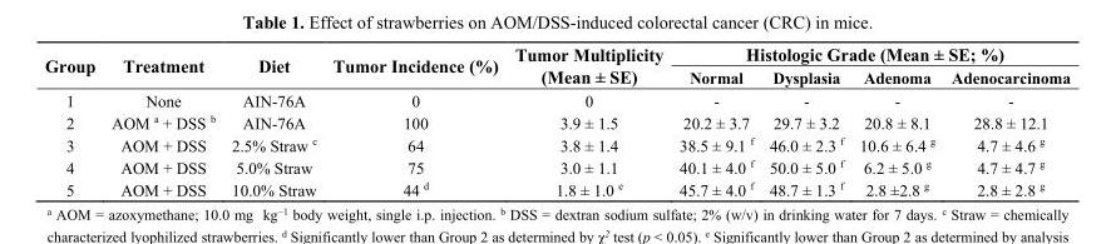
<table><thead><tr><td rowspan="2">Group</td><td rowspan="2">Treatment</td><td rowspan="2">Diet</td><td rowspan="2">Tumor Incidence (%)</td><td rowspan="2">Tumor Multiplicity (Mean ± SE)</td><td colspan="4">Histologic Grade (Mean ± SE; %)</td></tr><tr><td>Normal</td><td>Dysplasia</td><td>Adenoma</td><td>Adenocarcinoma</td></tr></thead><tbody><tr><td>1</td><td>None</td><td>AIN-76A</td><td>0</td><td>0</td><td>-</td><td>-</td><td>-</td><td>-</td></tr><tr><td>2</td><td>AOM <sup>a</sup> + DSS <sup>b</sup></td><td>AIN-76A</td><td>100</td><td>3.9 ± 1.5</td><td>20.2 ± 3.7</td><td>29.7 ± 3.2</td><td>20.8 ± 8.1</td><td>28.8 ± 12.1</td></tr><tr><td>3</td><td>AOM + DSS</td><td>2.5% Straw <sup>c</sup></td><td>64</td><td>3.8 ± 1.4</td><td>38.5 ± 9.1 <sup>f</sup></td><td>46.0 ± 2.3 <sup>f</sup></td><td>10.6 ± 6.4 <sup>g</sup></td><td>4.7 ± 4.6 <sup>g</sup></td></tr><tr><td>4</td><td>AOM + DSS</td><td>5.0% Straw</td><td>75</td><td>3.0 ± 1.1</td><td>40.1 ± 4.0 <sup>f</sup></td><td>50.0 ± 5.0 <sup>f</sup></td><td>6.2 ± 5.0 <sup>g</sup></td><td>4.7 ± 4.7 <sup>g</sup></td></tr><tr><td>5</td><td>AOM + DSS</td><td>10.0% Straw</td><td>44 <sup>d</sup></td><td>1.8 ± 1.0 <sup>e</sup></td><td>45.7 ± 4.0 <sup>f</sup></td><td>48.7 ± 1.3 <sup>f</sup></td><td>2.8 ±2.8 <sup>g</sup></td><td>2.8 ± 2.8 <sup>g</sup></td></tr></tbody></table>